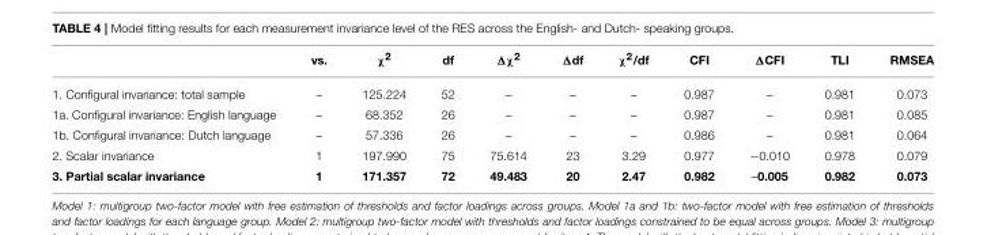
<table><thead><tr><td></td><td>vs.</td><td>χ<sup>2</sup></td><td>df</td><td>Δχ<sup>2</sup></td><td>Δdf</td><td>χ<sup>2</sup>/df</td><td>CFI</td><td>ΔCFI</td><td>TLI</td><td>RMSEA</td></tr></thead><tbody><tr><td>1. Configural invariance: total sample</td><td>–</td><td>125.224</td><td>52</td><td>–</td><td>–</td><td>–</td><td>0.987</td><td>–</td><td>0.981</td><td>0.073</td></tr><tr><td>1a. Configural invariance: English language</td><td>–</td><td>68.352</td><td>26</td><td>–</td><td>–</td><td>–</td><td>0.987</td><td>–</td><td>0.981</td><td>0.085</td></tr><tr><td>1b. Configural invariance: Dutch language</td><td>–</td><td>57.336</td><td>26</td><td>–</td><td>–</td><td>–</td><td>0.986</td><td>–</td><td>0.981</td><td>0.064</td></tr><tr><td>2. Scalar invariance</td><td>1</td><td>197.990</td><td>75</td><td>75.614</td><td>23</td><td>3.29</td><td>0.977</td><td>−0.010</td><td>0.978</td><td>0.079</td></tr><tr><td>3. Partial scalar invariance</td><td>1</td><td>171.357</td><td>72</td><td>49.483</td><td>20</td><td>2.47</td><td>0.982</td><td>–0.005</td><td>0.982</td><td>0.073</td></tr></tbody></table>